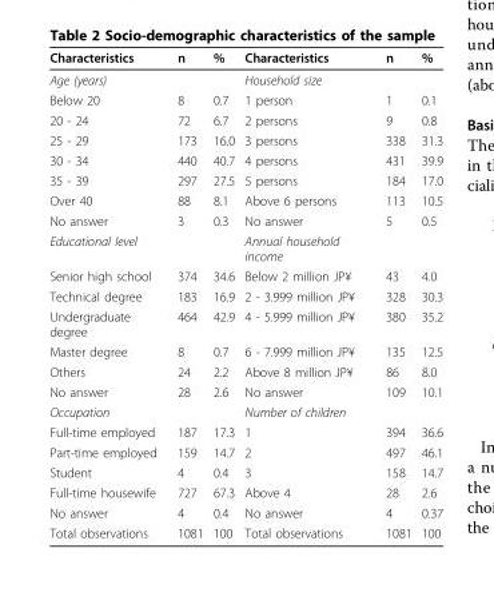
<table><thead><tr><td>Characteristics</td><td>n</td><td>%</td><td>Characteristics</td><td>n</td><td>%</td></tr></thead><tbody><tr><td>Age (years)</td><td></td><td></td><td>Household size</td><td></td><td></td></tr><tr><td>Below 20</td><td>8</td><td>0.7</td><td>1 person</td><td>1</td><td>0.1</td></tr><tr><td>20 - 24</td><td>72</td><td>6.7</td><td>2 persons</td><td>9</td><td>0.8</td></tr><tr><td>25 - 29</td><td>173</td><td>16.0</td><td>3 persons</td><td>338</td><td>31.3</td></tr><tr><td>30 - 34</td><td>440</td><td>40.7</td><td>4 persons</td><td>431</td><td>39.9</td></tr><tr><td>35 - 39</td><td>297</td><td>27.5</td><td>5 persons</td><td>184</td><td>17.0</td></tr><tr><td>Over 40</td><td>88</td><td>8.1</td><td>Above 6 persons</td><td>113</td><td>10.5</td></tr><tr><td>No answer</td><td>3</td><td>0.3</td><td>No answer</td><td>5</td><td>0.5</td></tr><tr><td>Educational level</td><td></td><td></td><td>Annual household income</td><td></td><td></td></tr><tr><td>Senior high school</td><td>374</td><td>34.6</td><td>Below 2 million JP¥</td><td>43</td><td>4.0</td></tr><tr><td>Technical degree</td><td>183</td><td>16.9</td><td>2 - 3.999 million JP¥</td><td>328</td><td>30.3</td></tr><tr><td>Undergraduate degree</td><td>464</td><td>42.9</td><td>4 - 5.999 million JP¥</td><td>380</td><td>35.2</td></tr><tr><td>Master degree</td><td>8</td><td>0.7</td><td>6 - 7.999 million JP¥</td><td>135</td><td>12.5</td></tr><tr><td>Others</td><td>24</td><td>2.2</td><td>Above 8 million JP¥</td><td>86</td><td>8.0</td></tr><tr><td>No answer</td><td>28</td><td>2.6</td><td>No answer</td><td>109</td><td>10.1</td></tr><tr><td>Occupation</td><td></td><td></td><td>Number of children</td><td></td><td></td></tr><tr><td>Full-time employed</td><td>187</td><td>17.3</td><td>1</td><td>394</td><td>36.6</td></tr><tr><td>Part-time employed</td><td>159</td><td>14.7</td><td>2</td><td>497</td><td>46.1</td></tr><tr><td>Student</td><td>4</td><td>0.4</td><td>3</td><td>158</td><td>14.7</td></tr><tr><td>Full-time housewife</td><td>727</td><td>67.3</td><td>Above 4</td><td>28</td><td>2.6</td></tr><tr><td>No answer</td><td>4</td><td>0.4</td><td>No answer</td><td>4</td><td>0.37</td></tr><tr><td>Total observations</td><td>1081</td><td>100</td><td>Total observations</td><td>1081</td><td>100</td></tr></tbody></table>